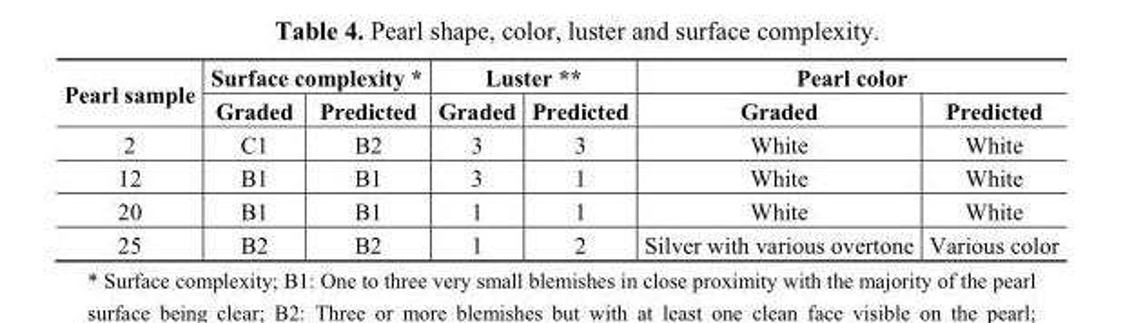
<table><thead><tr><td rowspan="2">Pearl sample</td><td colspan="2">Surface complexity *</td><td colspan="2">Luster **</td><td colspan="2">Pearl color</td></tr><tr><td>Graded</td><td>Predicted</td><td>Graded</td><td>Predicted</td><td>Graded</td><td>Predicted</td></tr></thead><tbody><tr><td>2</td><td>C1</td><td>B2</td><td>3</td><td>3</td><td>White</td><td>White</td></tr><tr><td>12</td><td>B1</td><td>B1</td><td>3</td><td>1</td><td>White</td><td>White</td></tr><tr><td>20</td><td>B1</td><td>B1</td><td>1</td><td>1</td><td>White</td><td>White</td></tr><tr><td>25</td><td>B2</td><td>B2</td><td>1</td><td>2</td><td>Silver with various overtone</td><td>Various color</td></tr></tbody></table>